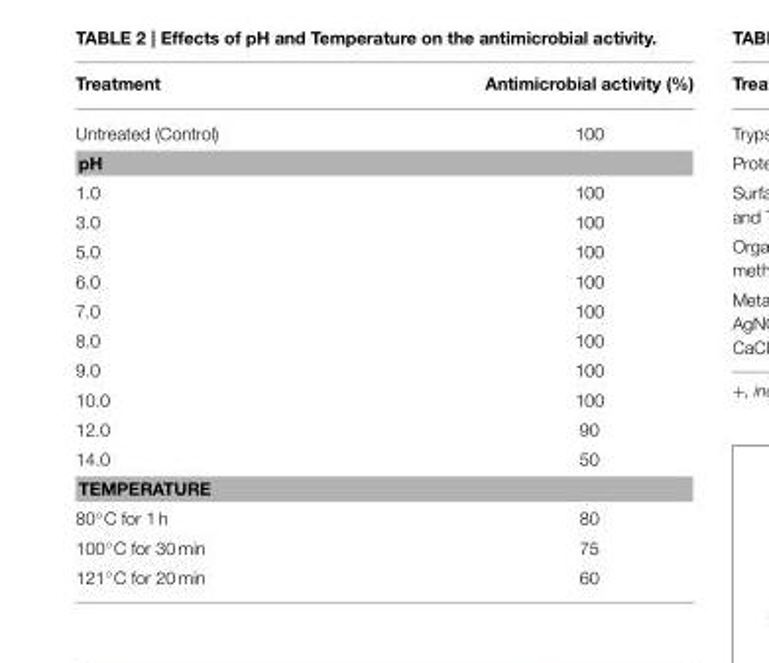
<table><thead><tr><td>Treatment</td><td>Antimicrobial activity (%)</td></tr></thead><tbody><tr><td>Untreated (Control)</td><td>100</td></tr><tr><td colspan="2">pH</td></tr><tr><td>1.0</td><td>100</td></tr><tr><td>3.0</td><td>100</td></tr><tr><td>5.0</td><td>100</td></tr><tr><td>6.0</td><td>100</td></tr><tr><td>7.0</td><td>100</td></tr><tr><td>8.0</td><td>100</td></tr><tr><td>9.0</td><td>100</td></tr><tr><td>10.0</td><td>100</td></tr><tr><td>12.0</td><td>90</td></tr><tr><td>14.0</td><td>50</td></tr><tr><td colspan="2">TEMPERATURE</td></tr><tr><td>80◦C for 1 h</td><td>80</td></tr><tr><td>100◦C for 30 min</td><td>75</td></tr><tr><td>121◦C for 20 min</td><td>60</td></tr></tbody></table>